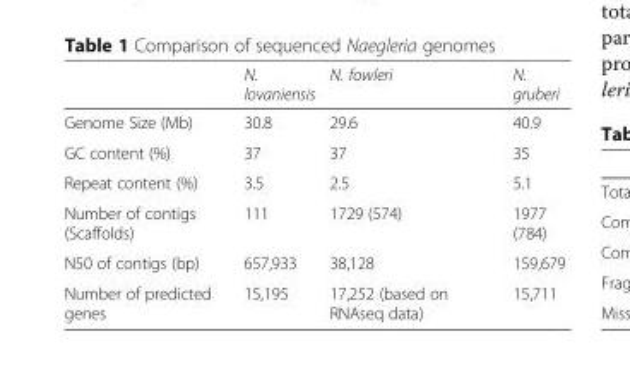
<table><thead><tr><td></td><td>N. lovaniensis</td><td>N. fowleri</td><td>N. gruberi</td></tr></thead><tbody><tr><td>Genome Size (Mb)</td><td>30.8</td><td>29.6</td><td>40.9</td></tr><tr><td>GC content (%)</td><td>37</td><td>37</td><td>35</td></tr><tr><td>Repeat content (%)</td><td>3.5</td><td>2.5</td><td>5.1</td></tr><tr><td>Number of contigs (Scaffolds)</td><td>111</td><td>1729 (574)</td><td>1977 (784)</td></tr><tr><td>N50 of contigs (bp)</td><td>657,933</td><td>38,128</td><td>159,679</td></tr><tr><td>Number of predicted genes</td><td>15,195</td><td>17,252 (based on RNAseq data)</td><td>15,711</td></tr></tbody></table>